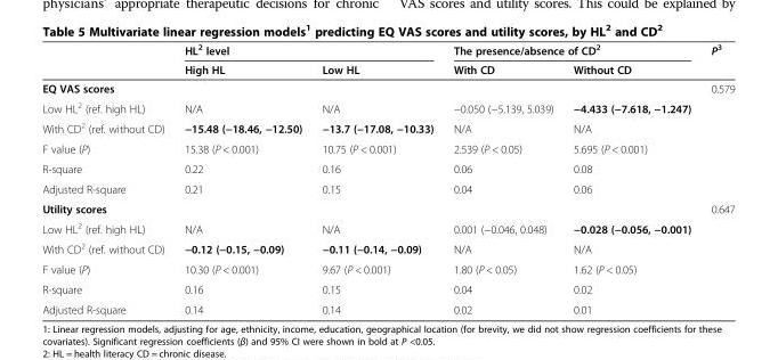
<table><thead><tr><td rowspan="2"></td><td colspan="2">HL<sup>2</sup> level</td><td colspan="2">The presence/absence of CD<sup>2</sup></td><td rowspan="2">P<sup>3</sup></td></tr><tr><td>High HL</td><td>Low HL</td><td>With CD</td><td>Without CD</td></tr></thead><tbody><tr><td colspan="5">EQ VAS scores</td><td rowspan="2">0.579</td></tr><tr><td>Low HL<sup>2</sup> (ref. high HL)</td><td>N/A</td><td>N/A</td><td>−0.050 (−5.139, 5.039)</td><td>−4.433 (−7.618, −1.247)</td></tr><tr><td>With CD<sup>2</sup> (ref. without CD)</td><td>−15.48 (−18.46, −12.50)</td><td>−13.7 (−17.08, −10.33)</td><td>N/A</td><td>N/A</td><td></td></tr><tr><td>F value (P)</td><td>15.38 (P &lt; 0.001)</td><td>10.75 (P &lt; 0.001)</td><td>2.539 (P &lt; 0.05)</td><td>5.695 (P &lt; 0.001)</td><td></td></tr><tr><td>R-square</td><td>0.22</td><td>0.16</td><td>0.06</td><td>0.08</td><td></td></tr><tr><td>Adjusted R-square</td><td>0.21</td><td>0.15</td><td>0.04</td><td>0.06</td><td></td></tr><tr><td>Utility scores</td><td></td><td></td><td></td><td></td><td>0.647</td></tr><tr><td>Low HL<sup>2</sup> (ref. high HL)</td><td>N/A</td><td>N/A</td><td>0.001 (−0.046, 0.048)</td><td>−0.028 (−0.056, −0.001)</td><td></td></tr><tr><td>With CD<sup>2</sup> (ref. without CD)</td><td>−0.12 (−0.15, −0.09)</td><td>−0.11 (−0.14, −0.09)</td><td>N/A</td><td>N/A</td><td></td></tr><tr><td>F value (P)</td><td>10.30 (P &lt; 0.001)</td><td>9.67 (P &lt; 0.001)</td><td>1.80 (P &lt; 0.05)</td><td>1.62 (P &lt; 0.05)</td><td></td></tr><tr><td>R-square</td><td>0.16</td><td>0.15</td><td>0.04</td><td>0.02</td><td></td></tr><tr><td>Adjusted R-square</td><td>0.14</td><td>0.14</td><td>0.02</td><td>0.01</td><td></td></tr></tbody></table>